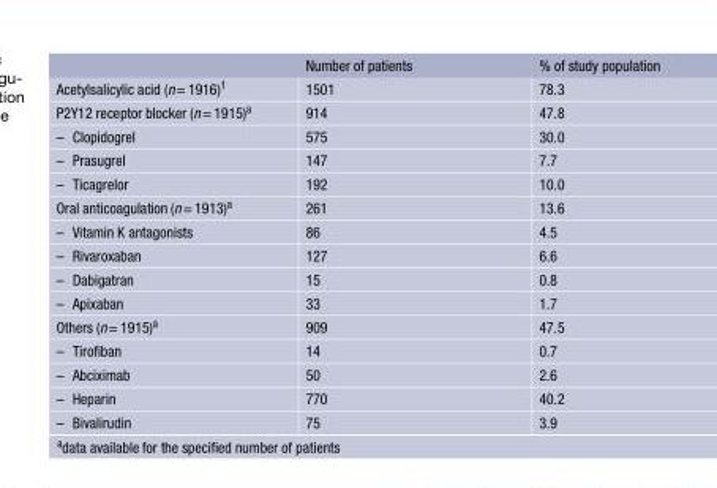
<table><thead><tr><td></td><td>Number of patients</td><td>% of study population</td></tr></thead><tbody><tr><td>Acetylsalicylic acid (n= 1916)<sup>1</sup></td><td>1501</td><td>78.3</td></tr><tr><td>P2Y12 receptor blocker (n= 1915)<sup>a</sup></td><td>914</td><td>47.8</td></tr><tr><td>– Clopidogrel</td><td>575</td><td>30.0</td></tr><tr><td>– Prasugrel</td><td>147</td><td>7.7</td></tr><tr><td>– Ticagrelor</td><td>192</td><td>10.0</td></tr><tr><td>Oral anticoagulation (n= 1913)<sup>a</sup></td><td>261</td><td>13.6</td></tr><tr><td>– Vitamin K antagonists</td><td>86</td><td>4.5</td></tr><tr><td>– Rivaroxaban</td><td>127</td><td>6.6</td></tr><tr><td>– Dabigatran</td><td>15</td><td>0.8</td></tr><tr><td>– Apixaban</td><td>33</td><td>1.7</td></tr><tr><td>Others (n= 1915)<sup>a</sup></td><td>909</td><td>47.5</td></tr><tr><td>– Tirofiban</td><td>14</td><td>0.7</td></tr><tr><td>– Abciximab</td><td>50</td><td>2.6</td></tr><tr><td>– Heparin</td><td>770</td><td>40.2</td></tr><tr><td>– Bivalirudin</td><td>75</td><td>3.9</td></tr></tbody></table>